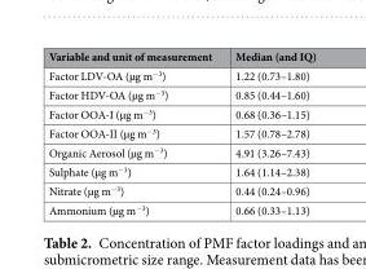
<table><thead><tr><td>Variable and unit of measurement</td><td>Median (and IQ)</td></tr></thead><tbody><tr><td>Factor LDV-OA (µg m<sup>−3</sup>)</td><td>1.22 (0.73–1.80)</td></tr><tr><td>Factor HDV-OA (µg m<sup>−3</sup>)</td><td>0.85 (0.44–1.60)</td></tr><tr><td>Factor OOA-I (µg m<sup>−3</sup>)</td><td>0.68 (0.36–1.15)</td></tr><tr><td>Factor OOA-II (µg m<sup>−3</sup>)</td><td>1.57 (0.78–2.78)</td></tr><tr><td>Organic Aerosol (µg m<sup>−3</sup>)</td><td>4.91 (3.26–7.43)</td></tr><tr><td>Sulphate (µg m<sup>−3</sup>)</td><td>1.64 (1.14–2.38)</td></tr><tr><td>Nitrate (µg m<sup>−3</sup>)</td><td>0.44 (0.24–0.96)</td></tr><tr><td>Ammonium (µg m<sup>−3</sup>)</td><td>0.66 (0.33–1.13)</td></tr></tbody></table>